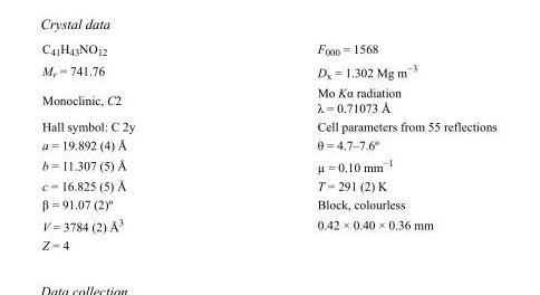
<table><tbody><tr><td>C<sub>41</sub>H<sub>43</sub>NO<sub>12</sub></td><td>F<sub>000</sub> = 1568</td></tr><tr><td>M<sub>r</sub> = 741.76</td><td>D<sub>x</sub> = 1.302 Mg m<sup>−3</sup></td></tr><tr><td>Monoclinic, C2</td><td>Mo Kα radiation λ = 0.71073 Å</td></tr><tr><td>Hall symbol: C 2y</td><td>Cell parameters from 55 reflections</td></tr><tr><td>a = 19.892 (4) Å</td><td>θ = 4.7–7.6º</td></tr><tr><td>b = 11.307 (5) Å</td><td>µ = 0.10 mm<sup>−1</sup></td></tr><tr><td>c = 16.825 (5) Å</td><td>T = 291 (2) K</td></tr><tr><td>β = 91.07 (2)º</td><td>Block, colourless</td></tr><tr><td>V = 3784 (2) Å<sup>3</sup></td><td>0.42 × 0.40 × 0.36 mm</td></tr><tr><td>Z = 4</td><td></td></tr></tbody></table>